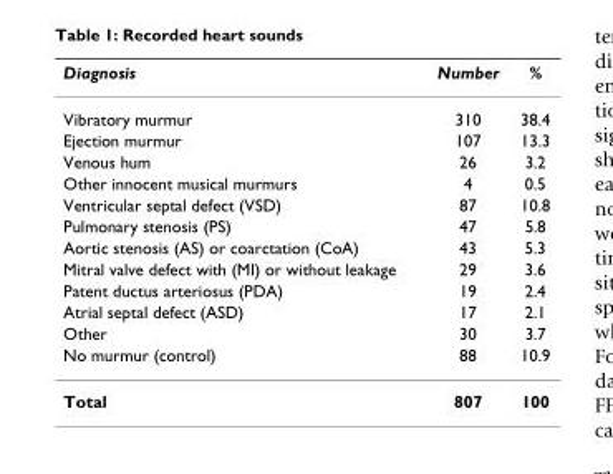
<table><thead><tr><td>Diagnosis</td><td>Number</td><td>%</td></tr></thead><tbody><tr><td>Vibratory murmur</td><td>310</td><td>38.4</td></tr><tr><td>Ejection murmur</td><td>107</td><td>13.3</td></tr><tr><td>Venous hum</td><td>26</td><td>3.2</td></tr><tr><td>Other innocent musical murmurs</td><td>4</td><td>0.5</td></tr><tr><td>Ventricular septal defect (VSD)</td><td>87</td><td>10.8</td></tr><tr><td>Pulmonary stenosis (PS)</td><td>47</td><td>5.8</td></tr><tr><td>Aortic stenosis (AS) or coarctation (CoA)</td><td>43</td><td>5.3</td></tr><tr><td>Mitral valve defect with (MI) or without leakage</td><td>29</td><td>3.6</td></tr><tr><td>Patent ductus arteriosus (PDA)</td><td>19</td><td>2.4</td></tr><tr><td>Atrial septal defect (ASD)</td><td>17</td><td>2.1</td></tr><tr><td>Other</td><td>30</td><td>3.7</td></tr><tr><td>No murmur (control)</td><td>88</td><td>10.9</td></tr><tr><td>Total</td><td>807</td><td>100</td></tr></tbody></table>